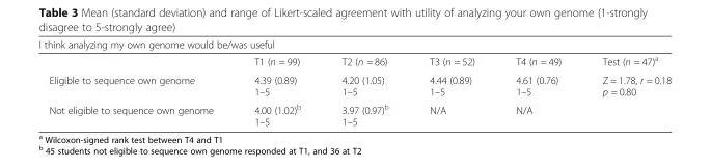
<table><thead><tr><td colspan="6">I think analyzing my own genome would be/was useful</td></tr><tr><td></td><td>T1 (n = 99)</td><td>T2 (n = 86)</td><td>T3 (n = 52)</td><td>T4 (n = 49)</td><td>Test (n = 47)<sup>a</sup></td></tr></thead><tbody><tr><td>Eligible to sequence own genome</td><td>4.39 (0.89) 1–5</td><td>4.20 (1.05) 1–5</td><td>4.44 (0.89) 1–5</td><td>4.61 (0.76) 1–5</td><td>Z = 1.78, r = 0.18 p = 0.80</td></tr><tr><td>Not eligible to sequence own genome</td><td>4.00 (1.02)<sup>b</sup> 1–5</td><td>3.97 (0.97)<sup>b</sup> 1–5</td><td>N/A</td><td>N/A</td><td></td></tr></tbody></table>